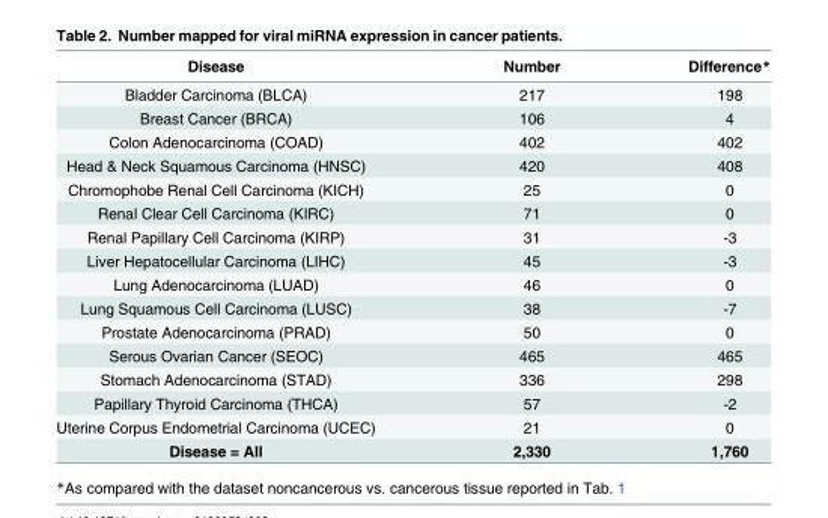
<table><thead><tr><td>Disease</td><td>Number</td><td>Difference*</td></tr></thead><tbody><tr><td>Bladder Carcinoma (BLCA)</td><td>217</td><td>198</td></tr><tr><td>Breast Cancer (BRCA)</td><td>106</td><td>4</td></tr><tr><td>Colon Adenocarcinoma (COAD)</td><td>402</td><td>402</td></tr><tr><td>Head &amp; Neck Squamous Carcinoma (HNSC)</td><td>420</td><td>408</td></tr><tr><td>Chromophobe Renal Cell Carcinoma (KICH)</td><td>25</td><td>0</td></tr><tr><td>Renal Clear Cell Carcinoma (KIRC)</td><td>71</td><td>0</td></tr><tr><td>Renal Papillary Cell Carcinoma (KIRP)</td><td>31</td><td>-3</td></tr><tr><td>Liver Hepatocellular Carcinoma (LIHC)</td><td>45</td><td>-3</td></tr><tr><td>Lung Adenocarcinoma (LUAD)</td><td>46</td><td>0</td></tr><tr><td>Lung Squamous Cell Carcinoma (LUSC)</td><td>38</td><td>-7</td></tr><tr><td>Prostate Adenocarcinoma (PRAD)</td><td>50</td><td>0</td></tr><tr><td>Serous Ovarian Cancer (SEOC)</td><td>465</td><td>465</td></tr><tr><td>Stomach Adenocarcinoma (STAD)</td><td>336</td><td>298</td></tr><tr><td>Papillary Thyroid Carcinoma (THCA)</td><td>57</td><td>-2</td></tr><tr><td>Uterine Corpus Endometrial Carcinoma (UCEC)</td><td>21</td><td>0</td></tr><tr><td>Disease = All</td><td>2,330</td><td>1,760</td></tr></tbody></table>